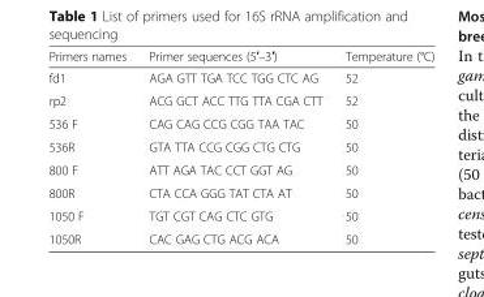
<table><thead><tr><td>Primers names</td><td>Primer sequences (5′–3′)</td><td>Temperature (°C)</td></tr></thead><tbody><tr><td>fd1</td><td>AGA GTT TGA TCC TGG CTC AG</td><td>52</td></tr><tr><td>rp2</td><td>ACG GCT ACC TTG TTA CGA CTT</td><td>52</td></tr><tr><td>536 F</td><td>CAG CAG CCG CGG TAA TAC</td><td>50</td></tr><tr><td>536R</td><td>GTA TTA CCG CGG CTG CTG</td><td>50</td></tr><tr><td>800 F</td><td>ATT AGA TAC CCT GGT AG</td><td>50</td></tr><tr><td>800R</td><td>CTA CCA GGG TAT CTA AT</td><td>50</td></tr><tr><td>1050 F</td><td>TGT CGT CAG CTC GTG</td><td>50</td></tr><tr><td>1050R</td><td>CAC GAG CTG ACG ACA</td><td>50</td></tr></tbody></table>